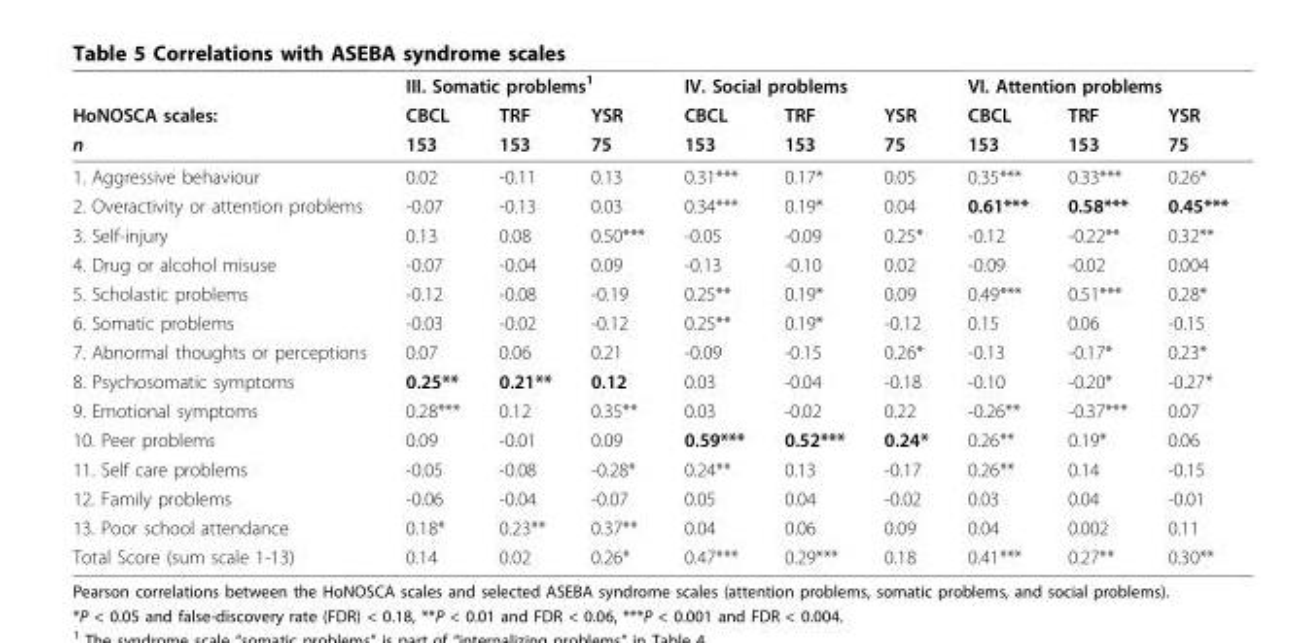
<table><thead><tr><td rowspan="3">HoNOSCA scales: n</td><td colspan="3">III. Somatic problems<sup>1</sup></td><td colspan="3">IV. Social problems</td><td colspan="3">VI. Attention problems</td></tr><tr><td rowspan="2">CBCL 153</td><td rowspan="2">TRF 153</td><td rowspan="2">YSR 75</td><td rowspan="2">CBCL 153</td><td rowspan="2">TRF 153</td><td rowspan="2">YSR 75</td><td rowspan="2">CBCL 153</td><td rowspan="2">TRF 153</td><td rowspan="2">YSR 75</td></tr><tr></tr></thead><tbody><tr><td>1. Aggressive behaviour</td><td>0.02</td><td>-0.11</td><td>0.13</td><td>0.31***</td><td>0.17*</td><td>0.05</td><td>0.35***</td><td>0.33***</td><td>0.26*</td></tr><tr><td>2. Overactivity or attention problems</td><td>-0.07</td><td>-0.13</td><td>0.03</td><td>0.34***</td><td>0.19*</td><td>0.04</td><td>0.61***</td><td>0.58***</td><td>0.45***</td></tr><tr><td>3. Self-injury</td><td>0.13</td><td>0.08</td><td>0.50***</td><td>-0.05</td><td>-0.09</td><td>0.25*</td><td>-0.12</td><td>-0.22**</td><td>0.32**</td></tr><tr><td>4. Drug or alcohol misuse</td><td>-0.07</td><td>-0.04</td><td>0.09</td><td>-0.13</td><td>-0.10</td><td>0.02</td><td>-0.09</td><td>-0.02</td><td>0.004</td></tr><tr><td>5. Scholastic problems</td><td>-0.12</td><td>-0.08</td><td>-0.19</td><td>0.25**</td><td>0.19*</td><td>0.09</td><td>0.49***</td><td>0.51***</td><td>0.28*</td></tr><tr><td>6. Somatic problems</td><td>-0.03</td><td>-0.02</td><td>-0.12</td><td>0.25**</td><td>0.19*</td><td>-0.12</td><td>0.15</td><td>0.06</td><td>-0.15</td></tr><tr><td>7. Abnormal thoughts or perceptions</td><td>0.07</td><td>0.06</td><td>0.21</td><td>-0.09</td><td>-0.15</td><td>0.26*</td><td>-0.13</td><td>-0.17*</td><td>0.23*</td></tr><tr><td>8. Psychosomatic symptoms</td><td>0.25**</td><td>0.21**</td><td>0.12</td><td>0.03</td><td>-0.04</td><td>-0.18</td><td>-0.10</td><td>-0.20*</td><td>-0.27*</td></tr><tr><td>9. Emotional symptoms</td><td>0.28***</td><td>0.12</td><td>0.35**</td><td>0.03</td><td>-0.02</td><td>0.22</td><td>-0.26**</td><td>-0.37***</td><td>0.07</td></tr><tr><td>10. Peer problems</td><td>0.09</td><td>-0.01</td><td>0.09</td><td>0.59***</td><td>0.52***</td><td>0.24*</td><td>0.26**</td><td>0.19*</td><td>0.06</td></tr><tr><td>11. Self care problems</td><td>-0.05</td><td>-0.08</td><td>-0.28*</td><td>0.24**</td><td>0.13</td><td>-0.17</td><td>0.26**</td><td>0.14</td><td>-0.15</td></tr><tr><td>12. Family problems</td><td>-0.06</td><td>-0.04</td><td>-0.07</td><td>0.05</td><td>0.04</td><td>-0.02</td><td>0.03</td><td>0.04</td><td>-0.01</td></tr><tr><td>13. Poor school attendance</td><td>0.18*</td><td>0.23**</td><td>0.37**</td><td>0.04</td><td>0.06</td><td>0.09</td><td>0.04</td><td>0.002</td><td>0.11</td></tr><tr><td>Total Score (sum scale 1-13)</td><td>0.14</td><td>0.02</td><td>0.26*</td><td>0.47***</td><td>0.29***</td><td>0.18</td><td>0.41***</td><td>0.27**</td><td>0.30**</td></tr></tbody></table>